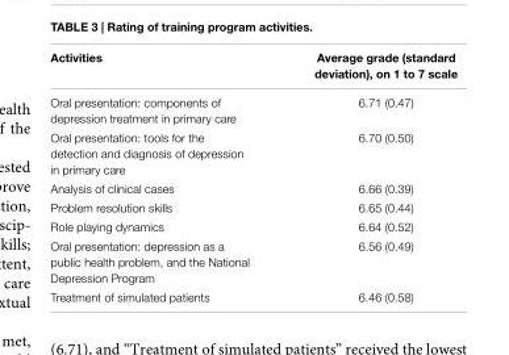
<table><thead><tr><td>Activities</td><td>Average grade (standard deviation), on 1 to 7 scale</td></tr></thead><tbody><tr><td>Oral presentation: components of depression treatment in primary care</td><td>6.71 (0.47)</td></tr><tr><td>Oral presentation: tools for the detection and diagnosis of depression in primary care</td><td>6.70 (0.50)</td></tr><tr><td>Analysis of clinical cases</td><td>6.66 (0.39)</td></tr><tr><td>Problem resolution skills</td><td>6.65 (0.44)</td></tr><tr><td>Role playing dynamics</td><td>6.64 (0.52)</td></tr><tr><td>Oral presentation: depression as a public health problem, and the National Depression Program</td><td>6.56 (0.49)</td></tr><tr><td>Treatment of simulated patients</td><td>6.46 (0.58)</td></tr></tbody></table>